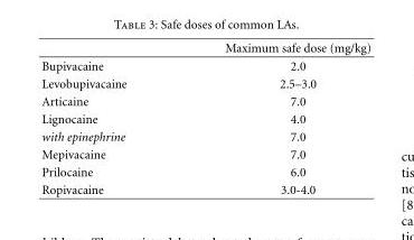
<table><thead><tr><td></td><td>Maximum safe dose (mg/kg)</td></tr></thead><tbody><tr><td>Bupivacaine</td><td>2.0</td></tr><tr><td>Levobupivacaine</td><td>2.5–3.0</td></tr><tr><td>Articaine</td><td>7.0</td></tr><tr><td>Lignocaine</td><td>4.0</td></tr><tr><td>with epinephrine</td><td>7.0</td></tr><tr><td>Mepivacaine</td><td>7.0</td></tr><tr><td>Prilocaine</td><td>6.0</td></tr><tr><td>Ropivacaine</td><td>3.0-4.0</td></tr></tbody></table>